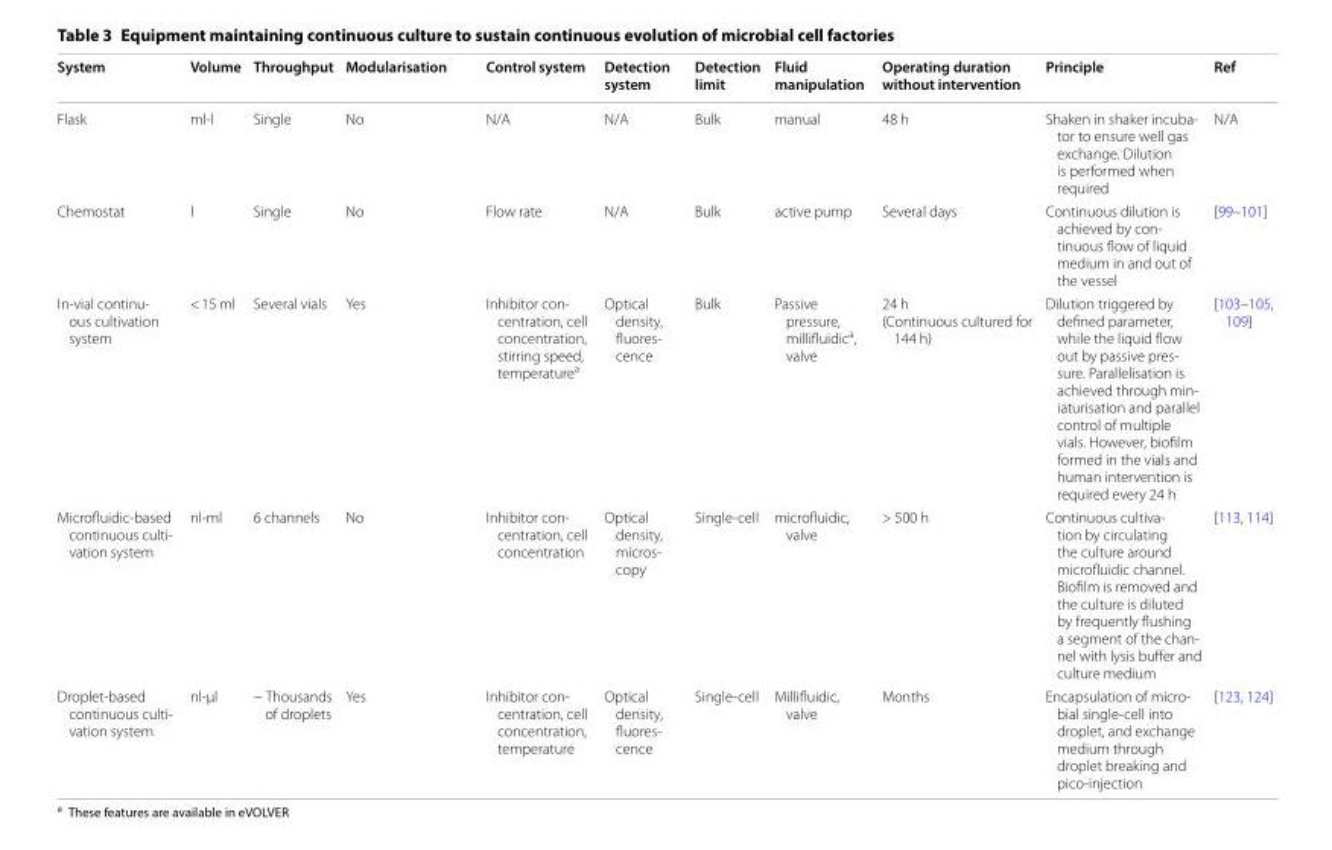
<table><thead><tr><td>System</td><td>Volume</td><td>Throughput</td><td>Modularisation</td><td>Control system</td><td>Detection system</td><td>Detection limit</td><td>Fluid manipulation</td><td>Operating duration without intervention</td><td>Principle</td><td>Ref</td></tr></thead><tbody><tr><td>Flask</td><td>ml-l</td><td>Single</td><td>No</td><td>N/A</td><td>N/A</td><td>Bulk</td><td>manual</td><td>48 h</td><td>Shaken in shaker incuba- tor to ensure well gas exchange. Dilution is performed when required</td><td>N/A</td></tr><tr><td>Chemostat</td><td>l</td><td>Single</td><td>No</td><td>Flow rate</td><td>N/A</td><td>Bulk</td><td>active pump</td><td>Several days</td><td>Continuous dilution is achieved by con- tinuous flow of liquid medium in and out of the vessel</td><td>[99–101]</td></tr><tr><td>In-vial continu- ous cultivation system</td><td>&lt; 15 ml</td><td>Several vials</td><td>Yes</td><td>Inhibitor con- centration, cell concentration, stirring speed, temperaturea</td><td>Optical density, fluores- cence</td><td>Bulk</td><td>Passive pressure, millifluidic<sup>a</sup>, valve</td><td>24 h (Continuous cultured for 144 h)</td><td>Dilution triggered by defined parameter, while the liquid flow out by passive pres- sure. Parallelisation is achieved through min- iaturisation and parallel control of multiple vials. However, biofilm formed in the vials and human intervention is required every 24 h</td><td>[103–105, 109]</td></tr><tr><td>Microfluidic-based continuous culti- vation system</td><td>nl-ml</td><td>6 channels</td><td>No</td><td>Inhibitor con- centration, cell concentration</td><td>Optical density, micros- copy</td><td>Single-cell</td><td>microfluidic, valve</td><td>&gt; 500 h</td><td>Continuous cultiva- tion by circulating the culture around microfluidic channel. Biofilm is removed and the culture is diluted by frequently flushing a segment of the chan- nel with lysis buffer and culture medium</td><td>[113, 114]</td></tr><tr><td>Droplet-based continuous culti- vation system</td><td>nl-μl</td><td>~ Thousands of droplets</td><td>Yes</td><td>Inhibitor con- centration, cell concentration, temperature</td><td>Optical density, fluores- cence</td><td>Single-cell</td><td>Millifluidic, valve</td><td>Months</td><td>Encapsulation of micro- bial single-cell into droplet, and exchange medium through droplet breaking and pico-injection</td><td>[123, 124]</td></tr></tbody></table>